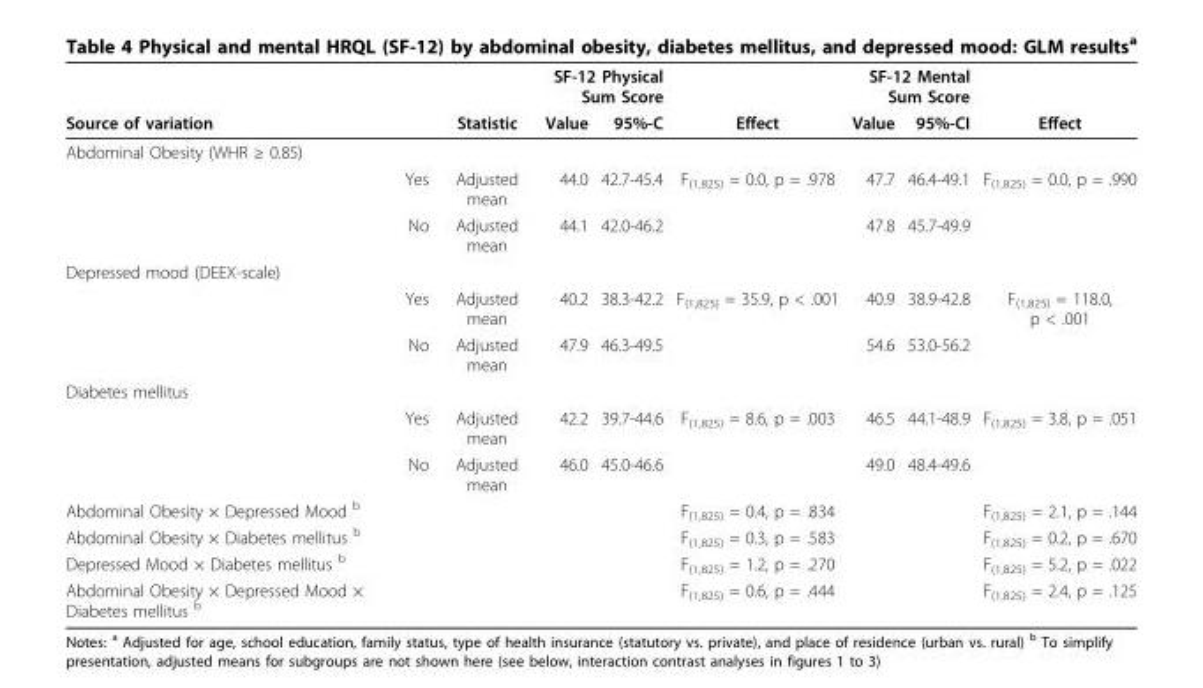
<table><thead><tr><td rowspan="2">Source of variation</td><td rowspan="2">Statistic</td><td colspan="2">SF-12 Physical Sum Score</td><td rowspan="2">Effect</td><td colspan="2">SF-12 Mental Sum Score</td><td rowspan="2">Effect</td></tr><tr><td>Value</td><td>95%-C</td><td>Value</td><td>95%-CI</td></tr></thead><tbody><tr><td colspan="8">Abdominal Obesity (WHR ≥ 0.85)</td></tr><tr><td>Yes</td><td>Adjusted mean</td><td>44.0</td><td>42.7-45.4</td><td>F<sub>(1,825)</sub> = 0.0, p = .978</td><td>47.7</td><td>46.4-49.1</td><td>F<sub>(1,825)</sub> = 0.0, p = .990</td></tr><tr><td>No</td><td>Adjusted mean</td><td>44.1</td><td>42.0-46.2</td><td></td><td>47.8</td><td>45.7-49.9</td><td></td></tr><tr><td colspan="8">Depressed mood (DEEX-scale)</td></tr><tr><td>Yes</td><td>Adjusted mean</td><td>40.2</td><td>38.3-42.2</td><td>F<sub>(1,825)</sub> = 35.9, p &lt; .001</td><td>40.9</td><td>38.9-42.8</td><td>F<sub>(1,825)</sub> = 118.0, p &lt; .001</td></tr><tr><td>No</td><td>Adjusted mean</td><td>47.9</td><td>46.3-49.5</td><td></td><td>54.6</td><td>53.0-56.2</td><td></td></tr><tr><td colspan="8">Diabetes mellitus</td></tr><tr><td>Yes</td><td>Adjusted mean</td><td>42.2</td><td>39.7-44.6</td><td>F<sub>(1,825)</sub> = 8.6, p = .003</td><td>46.5</td><td>44.1-48.9</td><td>F<sub>(1,825)</sub> = 3.8, p = .051</td></tr><tr><td>No</td><td>Adjusted mean</td><td>46.0</td><td>45.0-46.6</td><td></td><td>49.0</td><td>48.4-49.6</td><td></td></tr><tr><td>Abdominal Obesity × Depressed Mood <sup>b</sup></td><td></td><td></td><td></td><td>F<sub>(1,825)</sub> = 0.4, p = .834</td><td></td><td></td><td>F<sub>(1,825)</sub> = 2.1, p = .144</td></tr><tr><td>Abdominal Obesity × Diabetes mellitus <sup>b</sup></td><td></td><td></td><td></td><td>F<sub>(1,825)</sub> = 0.3, p = .583</td><td></td><td></td><td>F<sub>(1,825)</sub> = 0.2, p = .670</td></tr><tr><td>Depressed Mood × Diabetes mellitus <sup>b</sup></td><td></td><td></td><td></td><td>F<sub>(1,825)</sub> = 1.2, p = .270</td><td></td><td></td><td>F<sub>(1,825)</sub> = 5.2, p = .022</td></tr><tr><td>Abdominal Obesity × Depressed Mood × Diabetes mellitus <sup>b</sup></td><td></td><td></td><td></td><td>F<sub>(1,825)</sub> = 0.6, p = .444</td><td></td><td></td><td>F<sub>(1,825)</sub> = 2.4, p = .125</td></tr></tbody></table>